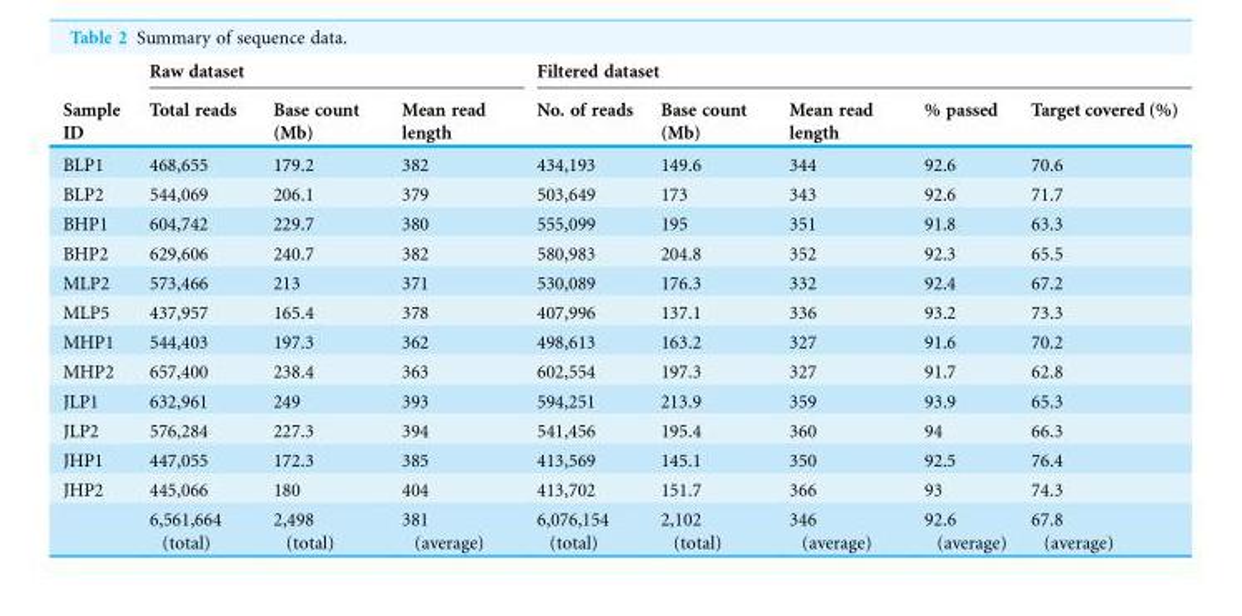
<table><thead><tr><td rowspan="2">Sample ID</td><td colspan="3">Raw dataset</td><td colspan="5">Filtered dataset</td></tr><tr><td>Total reads</td><td>Base count (Mb)</td><td>Mean read length</td><td>No. of reads</td><td>Base count (Mb)</td><td>Mean read length</td><td>% passed</td><td>Target covered (%)</td></tr></thead><tbody><tr><td>BLP1</td><td>468,655</td><td>179.2</td><td>382</td><td>434,193</td><td>149.6</td><td>344</td><td>92.6</td><td>70.6</td></tr><tr><td>BLP2</td><td>544,069</td><td>206.1</td><td>379</td><td>503,649</td><td>173</td><td>343</td><td>92.6</td><td>71.7</td></tr><tr><td>BHP1</td><td>604,742</td><td>229.7</td><td>380</td><td>555,099</td><td>195</td><td>351</td><td>91.8</td><td>63.3</td></tr><tr><td>BHP2</td><td>629,606</td><td>240.7</td><td>382</td><td>580,983</td><td>204.8</td><td>352</td><td>92.3</td><td>65.5</td></tr><tr><td>MLP2</td><td>573,466</td><td>213</td><td>371</td><td>530,089</td><td>176.3</td><td>332</td><td>92.4</td><td>67.2</td></tr><tr><td>MLP5</td><td>437,957</td><td>165.4</td><td>378</td><td>407,996</td><td>137.1</td><td>336</td><td>93.2</td><td>73.3</td></tr><tr><td>MHP1</td><td>544,403</td><td>197.3</td><td>362</td><td>498,613</td><td>163.2</td><td>327</td><td>91.6</td><td>70.2</td></tr><tr><td>MHP2</td><td>657,400</td><td>238.4</td><td>363</td><td>602,554</td><td>197.3</td><td>327</td><td>91.7</td><td>62.8</td></tr><tr><td>JLP1</td><td>632,961</td><td>249</td><td>393</td><td>594,251</td><td>213.9</td><td>359</td><td>93.9</td><td>65.3</td></tr><tr><td>JLP2</td><td>576,284</td><td>227.3</td><td>394</td><td>541,456</td><td>195.4</td><td>360</td><td>94</td><td>66.3</td></tr><tr><td>JHP1</td><td>447,055</td><td>172.3</td><td>385</td><td>413,569</td><td>145.1</td><td>350</td><td>92.5</td><td>76.4</td></tr><tr><td rowspan="2">JHP2</td><td>445,066</td><td>180</td><td>404</td><td>413,702</td><td>151.7</td><td>366</td><td>93</td><td>74.3</td></tr><tr><td>6,561,664 (total)</td><td>2,498 (total)</td><td>381 (average)</td><td>6,076,154 (total)</td><td>2,102 (total)</td><td>346 (average)</td><td>92.6 (average)</td><td>67.8 (average)</td></tr></tbody></table>